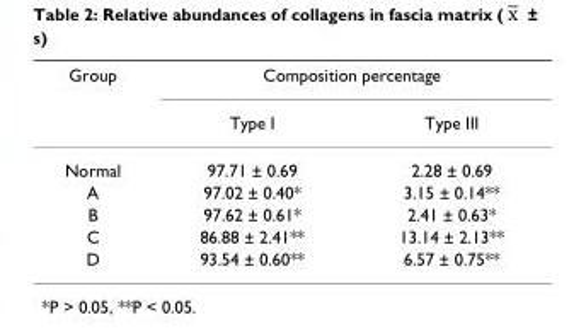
<table><thead><tr><td rowspan="2">Group</td><td colspan="2">Composition percentage</td></tr><tr><td>Type I</td><td>Type III</td></tr></thead><tbody><tr><td>Normal</td><td>97.71 ± 0.69</td><td>2.28 ± 0.69</td></tr><tr><td>A</td><td>97.02 ± 0.40*</td><td>3.15 ± 0.14**</td></tr><tr><td>B</td><td>97.62 ± 0.61*</td><td>2.41 ± 0.63*</td></tr><tr><td>C</td><td>86.88 ± 2.41**</td><td>13.14 ± 2.13**</td></tr><tr><td>D</td><td>93.54 ± 0.60**</td><td>6.57 ± 0.75**</td></tr></tbody></table>